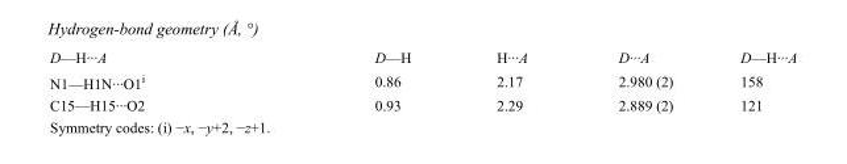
<table><tbody><tr><td>D—H···A</td><td>D—H</td><td>H···A</td><td>D···A</td><td>D—H···A</td></tr><tr><td>N1—H1N···O1<sup>i</sup></td><td>0.86</td><td>2.17</td><td>2.980 (2)</td><td>158</td></tr><tr><td>C15—H15···O2</td><td>0.93</td><td>2.29</td><td>2.889 (2)</td><td>121</td></tr></tbody></table>